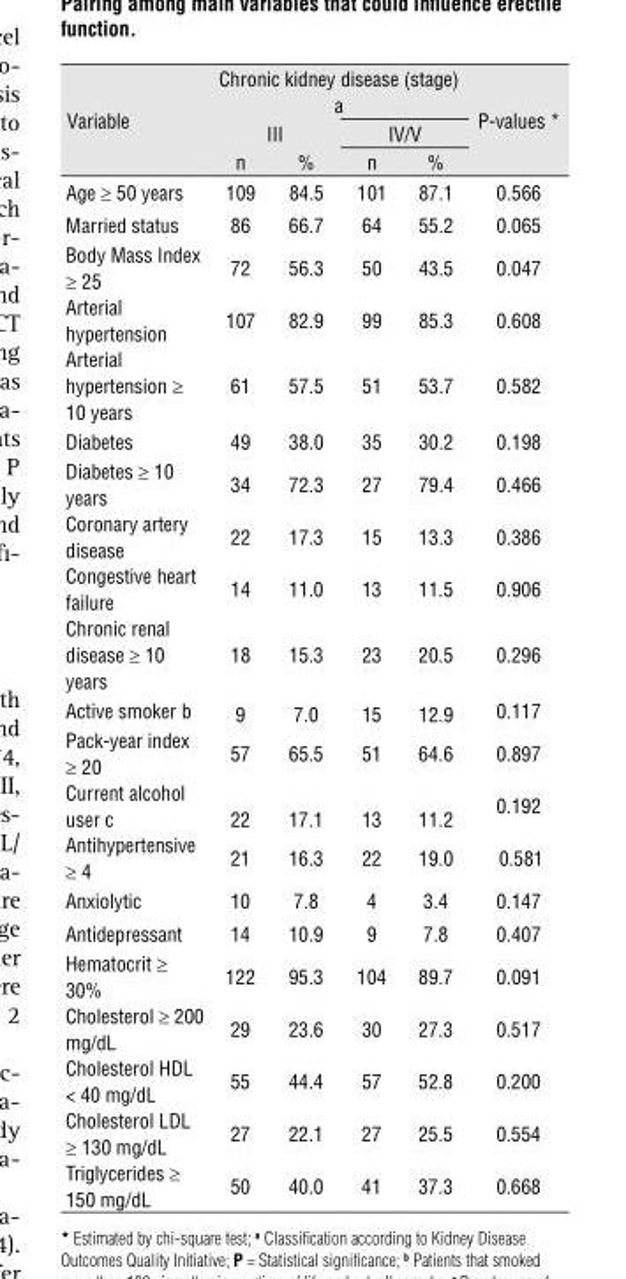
<table><thead><tr><td rowspan="3">Variable</td><td colspan="4">Chronic kidney disease (stage) a</td><td rowspan="3">P-values *</td></tr><tr><td colspan="2">III</td><td colspan="2">IV/V</td></tr><tr><td>n</td><td>%</td><td>n</td><td>%</td></tr></thead><tbody><tr><td>Age ≥ 50 years</td><td>109</td><td>84.5</td><td>101</td><td>87.1</td><td>0.566</td></tr><tr><td>Married status</td><td>86</td><td>66.7</td><td>64</td><td>55.2</td><td>0.065</td></tr><tr><td>Body Mass Index ≥ 25</td><td>72</td><td>56.3</td><td>50</td><td>43.5</td><td>0.047</td></tr><tr><td>Arterial hypertension</td><td>107</td><td>82.9</td><td>99</td><td>85.3</td><td>0.608</td></tr><tr><td>Arterial hypertension ≥ 10 years</td><td>61</td><td>57.5</td><td>51</td><td>53.7</td><td>0.582</td></tr><tr><td>Diabetes</td><td>49</td><td>38.0</td><td>35</td><td>30.2</td><td>0.198</td></tr><tr><td>Diabetes ≥ 10 years</td><td>34</td><td>72.3</td><td>27</td><td>79.4</td><td>0.466</td></tr><tr><td>Coronary artery disease</td><td>22</td><td>17.3</td><td>15</td><td>13.3</td><td>0.386</td></tr><tr><td>Congestive heart failure</td><td>14</td><td>11.0</td><td>13</td><td>11.5</td><td>0.906</td></tr><tr><td>Chronic renal disease ≥ 10 years</td><td>18</td><td>15.3</td><td>23</td><td>20.5</td><td>0.296</td></tr><tr><td>Active smoker b</td><td>9</td><td>7.0</td><td>15</td><td>12.9</td><td>0.117</td></tr><tr><td>Pack-year index ≥ 20</td><td>57</td><td>65.5</td><td>51</td><td>64.6</td><td>0.897</td></tr><tr><td>Current alcohol user c</td><td>22</td><td>17.1</td><td>13</td><td>11.2</td><td>0.192</td></tr><tr><td>Antihypertensive ≥ 4</td><td>21</td><td>16.3</td><td>22</td><td>19.0</td><td>0.581</td></tr><tr><td>Anxiolytic</td><td>10</td><td>7.8</td><td>4</td><td>3.4</td><td>0.147</td></tr><tr><td>Antidepressant</td><td>14</td><td>10.9</td><td>9</td><td>7.8</td><td>0.407</td></tr><tr><td>Hematocrit ≥ 30%</td><td>122</td><td>95.3</td><td>104</td><td>89.7</td><td>0.091</td></tr><tr><td>Cholesterol ≥ 200 mg/dL</td><td>29</td><td>23.6</td><td>30</td><td>27.3</td><td>0.517</td></tr><tr><td>Cholesterol HDL &lt; 40 mg/dL</td><td>55</td><td>44.4</td><td>57</td><td>52.8</td><td>0.200</td></tr><tr><td>Cholesterol LDL ≥ 130 mg/dL</td><td>27</td><td>22.1</td><td>27</td><td>25.5</td><td>0.554</td></tr><tr><td>Triglycerides ≥ 150 mg/dL</td><td>50</td><td>40.0</td><td>41</td><td>37.3</td><td>0.668</td></tr></tbody></table>